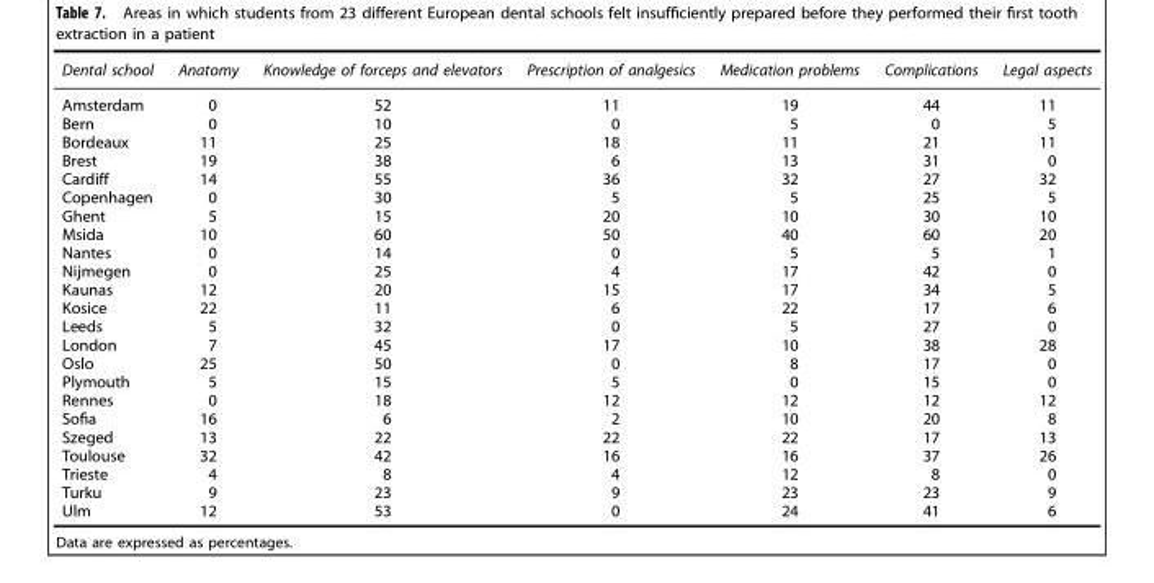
<table><thead><tr><td>Dental school</td><td>Anatomy</td><td>Knowledge of forceps and elevators</td><td>Prescription of analgesics</td><td>Medication problems</td><td>Complications</td><td>Legal aspects</td></tr></thead><tbody><tr><td>Amsterdam</td><td>0</td><td>52</td><td>11</td><td>19</td><td>44</td><td>11</td></tr><tr><td>Bern</td><td>0</td><td>10</td><td>0</td><td>5</td><td>0</td><td>5</td></tr><tr><td>Bordeaux</td><td>11</td><td>25</td><td>18</td><td>11</td><td>21</td><td>11</td></tr><tr><td>Brest</td><td>19</td><td>38</td><td>6</td><td>13</td><td>31</td><td>0</td></tr><tr><td>Cardiff</td><td>14</td><td>55</td><td>36</td><td>32</td><td>27</td><td>32</td></tr><tr><td>Copenhagen</td><td>0</td><td>30</td><td>5</td><td>5</td><td>25</td><td>5</td></tr><tr><td>Ghent</td><td>5</td><td>15</td><td>20</td><td>10</td><td>30</td><td>10</td></tr><tr><td>Msida</td><td>10</td><td>60</td><td>50</td><td>40</td><td>60</td><td>20</td></tr><tr><td>Nantes</td><td>0</td><td>14</td><td>0</td><td>5</td><td>5</td><td>1</td></tr><tr><td>Nijmegen</td><td>0</td><td>25</td><td>4</td><td>17</td><td>42</td><td>0</td></tr><tr><td>Kaunas</td><td>12</td><td>20</td><td>15</td><td>17</td><td>34</td><td>5</td></tr><tr><td>Kosice</td><td>22</td><td>11</td><td>6</td><td>22</td><td>17</td><td>6</td></tr><tr><td>Leeds</td><td>5</td><td>32</td><td>0</td><td>5</td><td>27</td><td>0</td></tr><tr><td>London</td><td>7</td><td>45</td><td>17</td><td>10</td><td>38</td><td>28</td></tr><tr><td>Oslo</td><td>25</td><td>50</td><td>0</td><td>8</td><td>17</td><td>0</td></tr><tr><td>Plymouth</td><td>5</td><td>15</td><td>5</td><td>0</td><td>15</td><td>0</td></tr><tr><td>Rennes</td><td>0</td><td>18</td><td>12</td><td>12</td><td>12</td><td>12</td></tr><tr><td>Sofia</td><td>16</td><td>6</td><td>2</td><td>10</td><td>20</td><td>8</td></tr><tr><td>Szeged</td><td>13</td><td>22</td><td>22</td><td>22</td><td>17</td><td>13</td></tr><tr><td>Toulouse</td><td>32</td><td>42</td><td>16</td><td>16</td><td>37</td><td>26</td></tr><tr><td>Trieste</td><td>4</td><td>8</td><td>4</td><td>12</td><td>8</td><td>0</td></tr><tr><td>Turku</td><td>9</td><td>23</td><td>9</td><td>23</td><td>23</td><td>9</td></tr><tr><td>Ulm</td><td>12</td><td>53</td><td>0</td><td>24</td><td>41</td><td>6</td></tr></tbody></table>